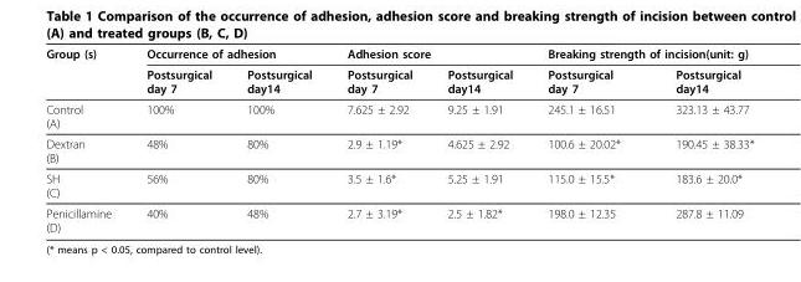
<table><thead><tr><td rowspan="2">Group (s)</td><td colspan="2">Occurrence of adhesion</td><td colspan="2">Adhesion score</td><td colspan="2">Breaking strength of incision(unit: g)</td></tr><tr><td>Postsurgical day 7</td><td>Postsurgical day14</td><td>Postsurgical day 7</td><td>Postsurgical day14</td><td>Postsurgical day 7</td><td>Postsurgical day14</td></tr></thead><tbody><tr><td>Control (A)</td><td>100%</td><td>100%</td><td>7.625 ± 2.92</td><td>9.25 ± 1.91</td><td>245.1 ± 16.51</td><td>323.13 ± 43.77</td></tr><tr><td>Dextran (B)</td><td>48%</td><td>80%</td><td>2.9 ± 1.19*</td><td>4.625 ± 2.92</td><td>100.6 ± 20.02*</td><td>190.45 ± 38.33*</td></tr><tr><td>SH (C)</td><td>56%</td><td>80%</td><td>3.5 ± 1.6*</td><td>5.25 ± 1.91</td><td>115.0 ± 15.5*</td><td>183.6 ± 20.0*</td></tr><tr><td>Penicillamine (D)</td><td>40%</td><td>48%</td><td>2.7 ± 3.19*</td><td>2.5 ± 1.82*</td><td>198.0 ± 12.35</td><td>287.8 ± 11.09</td></tr></tbody></table>